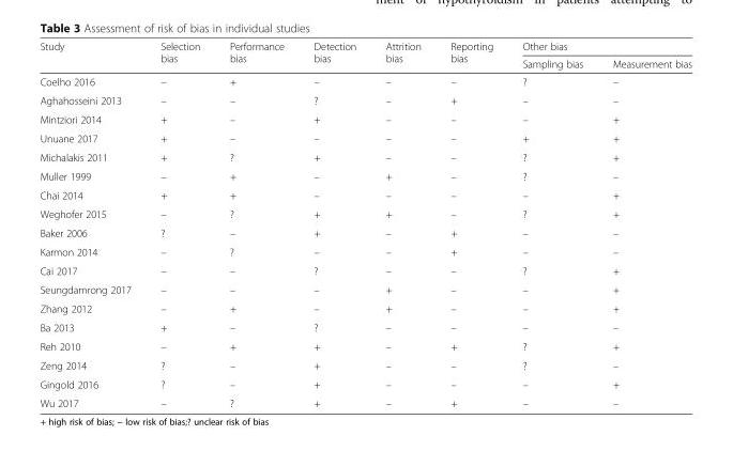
<table><thead><tr><td rowspan="2">Study</td><td rowspan="2">Selection bias</td><td rowspan="2">Performance bias</td><td rowspan="2">Detection bias</td><td rowspan="2">Attrition bias</td><td rowspan="2">Reporting bias</td><td colspan="2">Other bias</td></tr><tr><td>Sampling bias</td><td>Measurement bias</td></tr></thead><tbody><tr><td>Coelho 2016</td><td>–</td><td>+</td><td>–</td><td>–</td><td>–</td><td>?</td><td>–</td></tr><tr><td>Aghahosseini 2013</td><td>–</td><td>–</td><td>?</td><td>–</td><td>+</td><td>–</td><td>–</td></tr><tr><td>Mintziori 2014</td><td>+</td><td>–</td><td>+</td><td>–</td><td>–</td><td>–</td><td>+</td></tr><tr><td>Unuane 2017</td><td>+</td><td>–</td><td>–</td><td>–</td><td>–</td><td>+</td><td>+</td></tr><tr><td>Michalakis 2011</td><td>+</td><td>?</td><td>+</td><td>–</td><td>–</td><td>?</td><td>+</td></tr><tr><td>Muller 1999</td><td>–</td><td>+</td><td>–</td><td>+</td><td>–</td><td>?</td><td>–</td></tr><tr><td>Chai 2014</td><td>+</td><td>+</td><td>–</td><td>–</td><td>–</td><td>–</td><td>+</td></tr><tr><td>Weghofer 2015</td><td>–</td><td>?</td><td>+</td><td>+</td><td>–</td><td>?</td><td>+</td></tr><tr><td>Baker 2006</td><td>?</td><td>–</td><td>+</td><td>–</td><td>+</td><td>–</td><td>–</td></tr><tr><td>Karmon 2014</td><td>–</td><td>?</td><td>–</td><td>–</td><td>+</td><td>–</td><td>–</td></tr><tr><td>Cai 2017</td><td>–</td><td>–</td><td>?</td><td>–</td><td>–</td><td>?</td><td>+</td></tr><tr><td>Seungdamrong 2017</td><td>–</td><td>–</td><td>–</td><td>+</td><td>–</td><td>–</td><td>+</td></tr><tr><td>Zhang 2012</td><td>–</td><td>+</td><td>–</td><td>+</td><td>–</td><td>–</td><td>+</td></tr><tr><td>Ba 2013</td><td>+</td><td>–</td><td>?</td><td>–</td><td>–</td><td>–</td><td>–</td></tr><tr><td>Reh 2010</td><td>–</td><td>+</td><td>+</td><td>–</td><td>+</td><td>?</td><td>+</td></tr><tr><td>Zeng 2014</td><td>?</td><td>–</td><td>+</td><td>–</td><td>–</td><td>?</td><td>–</td></tr><tr><td>Gingold 2016</td><td>?</td><td>–</td><td>+</td><td>–</td><td>–</td><td>–</td><td>+</td></tr><tr><td>Wu 2017</td><td>–</td><td>?</td><td>+</td><td>–</td><td>+</td><td>–</td><td>–</td></tr></tbody></table>